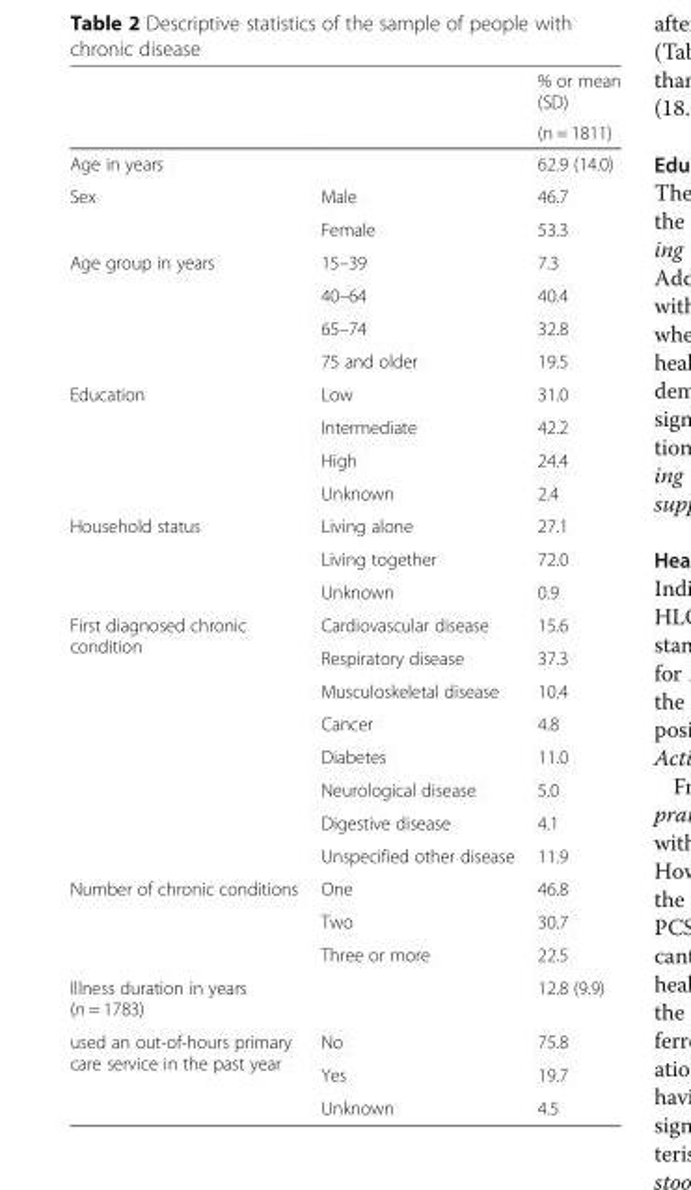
<table><thead><tr><td rowspan="2"></td><td rowspan="2"></td><td rowspan="2">% or mean (SD) (n = 1811)</td></tr><tr></tr></thead><tbody><tr><td>Age in years</td><td></td><td>62.9 (14.0)</td></tr><tr><td rowspan="2">Sex</td><td>Male</td><td>46.7</td></tr><tr><td>Female</td><td>53.3</td></tr><tr><td rowspan="4">Age group in years</td><td>15–39</td><td>7.3</td></tr><tr><td>40–64</td><td>40.4</td></tr><tr><td>65–74</td><td>32.8</td></tr><tr><td>75 and older</td><td>19.5</td></tr><tr><td rowspan="4">Education</td><td>Low</td><td>31.0</td></tr><tr><td>Intermediate</td><td>42.2</td></tr><tr><td>High</td><td>24.4</td></tr><tr><td>Unknown</td><td>2.4</td></tr><tr><td rowspan="3">Household status</td><td>Living alone</td><td>27.1</td></tr><tr><td>Living together</td><td>72.0</td></tr><tr><td>Unknown</td><td>0.9</td></tr><tr><td rowspan="8">First diagnosed chronic condition</td><td>Cardiovascular disease</td><td>15.6</td></tr><tr><td>Respiratory disease</td><td>37.3</td></tr><tr><td>Musculoskeletal disease</td><td>10.4</td></tr><tr><td>Cancer</td><td>4.8</td></tr><tr><td>Diabetes</td><td>11.0</td></tr><tr><td>Neurological disease</td><td>5.0</td></tr><tr><td>Digestive disease</td><td>4.1</td></tr><tr><td>Unspecified other disease</td><td>11.9</td></tr><tr><td rowspan="3">Number of chronic conditions</td><td>One</td><td>46.8</td></tr><tr><td>Two</td><td>30.7</td></tr><tr><td>Three or more</td><td>22.5</td></tr><tr><td>Illness duration in years (n = 1783)</td><td></td><td>12.8 (9.9)</td></tr><tr><td rowspan="3">used an out-of-hours primary care service in the past year</td><td>No</td><td>75.8</td></tr><tr><td>Yes</td><td>19.7</td></tr><tr><td>Unknown</td><td>4.5</td></tr></tbody></table>